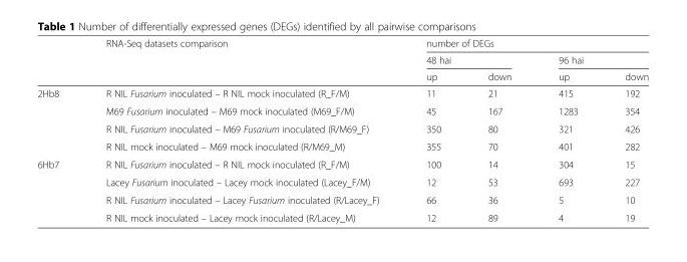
<table><thead><tr><td rowspan="3"></td><td rowspan="3">RNA-Seq datasets comparison</td><td colspan="4">number of DEGs</td></tr><tr><td colspan="2">48 hai</td><td colspan="2">96 hai</td></tr><tr><td>up</td><td>down</td><td>up</td><td>down</td></tr></thead><tbody><tr><td rowspan="4">2Hb8</td><td>R NIL Fusarium inoculated – R NIL mock inoculated (R_F/M)</td><td>11</td><td>21</td><td>415</td><td>192</td></tr><tr><td>M69 Fusarium inoculated – M69 mock inoculated (M69_F/M)</td><td>45</td><td>167</td><td>1283</td><td>354</td></tr><tr><td>R NIL Fusarium inoculated – M69 Fusarium inoculated (R/M69_F)</td><td>350</td><td>80</td><td>321</td><td>426</td></tr><tr><td>R NIL mock inoculated – M69 mock inoculated (R/M69_M)</td><td>355</td><td>70</td><td>401</td><td>282</td></tr><tr><td rowspan="4">6Hb7</td><td>R NIL Fusarium inoculated – R NIL mock inoculated (R_F/M)</td><td>100</td><td>14</td><td>304</td><td>15</td></tr><tr><td>Lacey Fusarium inoculated – Lacey mock inoculated (Lacey_F/M)</td><td>12</td><td>53</td><td>693</td><td>227</td></tr><tr><td>R NIL Fusarium inoculated – Lacey Fusarium inoculated (R/Lacey_F)</td><td>66</td><td>36</td><td>5</td><td>10</td></tr><tr><td>R NIL mock inoculated – Lacey mock inoculated (R/Lacey_M)</td><td>12</td><td>89</td><td>4</td><td>19</td></tr></tbody></table>